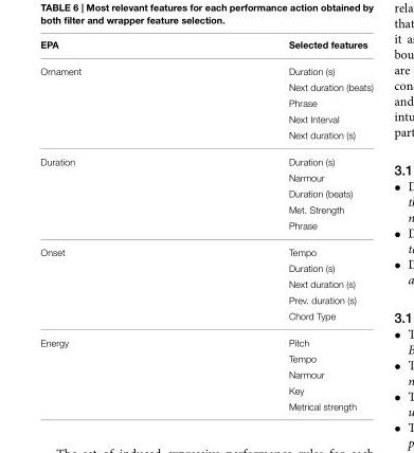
<table><thead><tr><td>EPA</td><td>Selected features</td></tr></thead><tbody><tr><td rowspan="5">Ornament</td><td>Duration (s)</td></tr><tr><td>Next duration (beats)</td></tr><tr><td>Phrase</td></tr><tr><td>Next Interval</td></tr><tr><td>Next duration (s)</td></tr><tr><td rowspan="5">Duration</td><td>Duration (s)</td></tr><tr><td>Narmour</td></tr><tr><td>Duration (beats)</td></tr><tr><td>Met. Strength</td></tr><tr><td>Phrase</td></tr><tr><td rowspan="5">Onset</td><td>Tempo</td></tr><tr><td>Duration (s)</td></tr><tr><td>Next duration (s)</td></tr><tr><td>Prev. duration (s)</td></tr><tr><td>Chord Type</td></tr><tr><td rowspan="5">Energy</td><td>Pitch</td></tr><tr><td>Tempo</td></tr><tr><td>Narmour</td></tr><tr><td>Key</td></tr><tr><td>Metrical strength</td></tr></tbody></table>